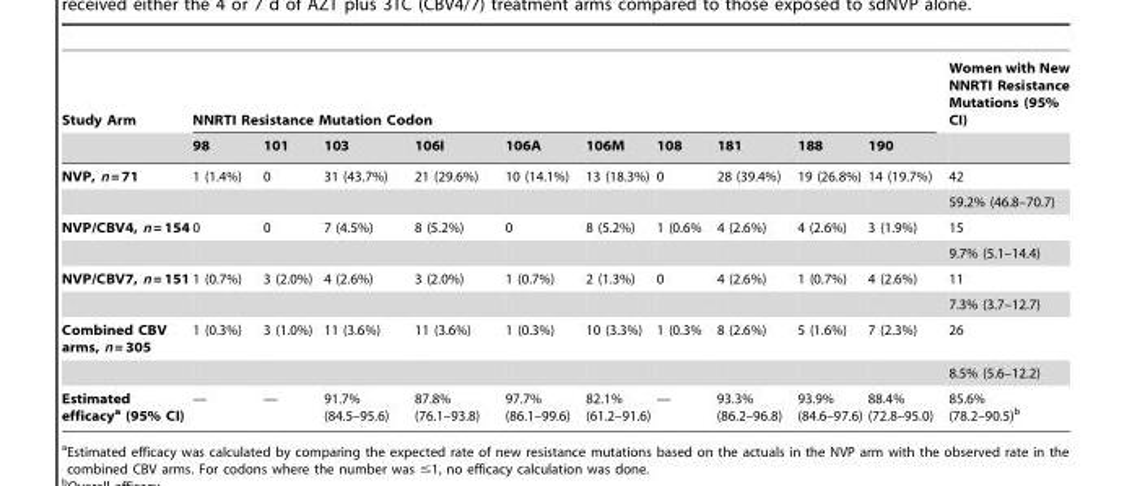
<table><thead><tr><td rowspan="2">Study Arm</td><td colspan="10">NNRTI Resistance Mutation Codon</td><td rowspan="2">Women with New NNRTI Resistance Mutations (95% CI)</td></tr><tr><td>98</td><td>101</td><td>103</td><td>106I</td><td>106A</td><td>106M</td><td>108</td><td>181</td><td>188</td><td>190</td></tr></thead><tbody><tr><td rowspan="2">NVP, n = 71</td><td>1 (1.4%)</td><td>0</td><td>31 (43.7%)</td><td>21 (29.6%)</td><td>10 (14.1%)</td><td>13 (18.3%)</td><td>0</td><td>28 (39.4%)</td><td>19 (26.8%)</td><td>14 (19.7%)</td><td>42</td></tr><tr><td></td><td></td><td></td><td></td><td></td><td></td><td></td><td></td><td></td><td></td><td>59.2% (46.8–70.7)</td></tr><tr><td rowspan="2">NVP/CBV4, n = 154</td><td>0</td><td>0</td><td>7 (4.5%)</td><td>8 (5.2%)</td><td>0</td><td>8 (5.2%)</td><td>1 (0.6%</td><td>4 (2.6%)</td><td>4 (2.6%)</td><td>3 (1.9%)</td><td>15</td></tr><tr><td></td><td></td><td></td><td></td><td></td><td></td><td></td><td></td><td></td><td></td><td>9.7% (5.1–14.4)</td></tr><tr><td rowspan="2">NVP/CBV7, n = 151</td><td>1 (0.7%)</td><td>3 (2.0%)</td><td>4 (2.6%)</td><td>3 (2.0%)</td><td>1 (0.7%)</td><td>2 (1.3%)</td><td>0</td><td>4 (2.6%)</td><td>1 (0.7%)</td><td>4 (2.6%)</td><td>11</td></tr><tr><td></td><td></td><td></td><td></td><td></td><td></td><td></td><td></td><td></td><td></td><td>7.3% (3.7–12.7)</td></tr><tr><td rowspan="2">Combined CBV arms, n = 305</td><td>1 (0.3%)</td><td>3 (1.0%)</td><td>11 (3.6%)</td><td>11 (3.6%)</td><td>1 (0.3%)</td><td>10 (3.3%)</td><td>1 (0.3%</td><td>8 (2.6%)</td><td>5 (1.6%)</td><td>7 (2.3%)</td><td>26</td></tr><tr><td></td><td></td><td></td><td></td><td></td><td></td><td></td><td></td><td></td><td></td><td>8.5% (5.6–12.2)</td></tr><tr><td>Estimated efficacya (95% CI)</td><td>—</td><td>—</td><td>91.7% (84.5–95.6)</td><td>87.8% (76.1–93.8)</td><td>97.7% (86.1–99.6)</td><td>82.1% (61.2–91.6)</td><td>—</td><td>93.3% (86.2–96.8)</td><td>93.9% (84.6–97.6)</td><td>88.4% (72.8–95.0)</td><td>85.6% (78.2–90.5)<sup>b</sup></td></tr></tbody></table>